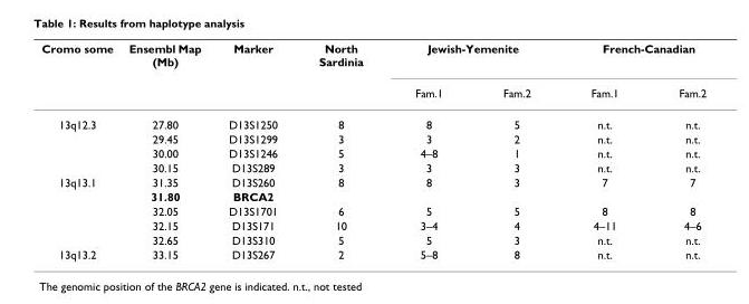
<table><thead><tr><td rowspan="2">Cromo some</td><td rowspan="2">Ensembl Map (Mb)</td><td rowspan="2">Marker</td><td rowspan="2">North Sardinia</td><td colspan="2">Jewish-Yemenite</td><td colspan="2">French-Canadian</td></tr><tr><td>Fam.1</td><td>Fam.2</td><td>Fam.1</td><td>Fam.2</td></tr></thead><tbody><tr><td rowspan="4">13q12.3</td><td>27.80</td><td>D13S1250</td><td>8</td><td>8</td><td>5</td><td>n.t.</td><td>n.t.</td></tr><tr><td>29.45</td><td>D13S1299</td><td>3</td><td>3</td><td>2</td><td>n.t.</td><td>n.t.</td></tr><tr><td>30.00</td><td>D13S1246</td><td>5</td><td>4–8</td><td>1</td><td>n.t.</td><td>n.t.</td></tr><tr><td>30.15</td><td>D13S289</td><td>3</td><td>3</td><td>3</td><td>n.t.</td><td>n.t.</td></tr><tr><td rowspan="5">13q13.1</td><td>31.35</td><td>D13S260</td><td>8</td><td>8</td><td>3</td><td>7</td><td>7</td></tr><tr><td>31.80</td><td>BRCA2</td><td></td><td></td><td></td><td></td><td></td></tr><tr><td>32.05</td><td>D13S1701</td><td>6</td><td>5</td><td>5</td><td>8</td><td>8</td></tr><tr><td>32.15</td><td>D13S171</td><td>10</td><td>3–4</td><td>4</td><td>4–11</td><td>4–6</td></tr><tr><td>32.65</td><td>D13S310</td><td>5</td><td>5</td><td>3</td><td>n.t.</td><td>n.t.</td></tr><tr><td>13q13.2</td><td>33.15</td><td>D13S267</td><td>2</td><td>5–8</td><td>8</td><td>n.t.</td><td>n.t.</td></tr></tbody></table>